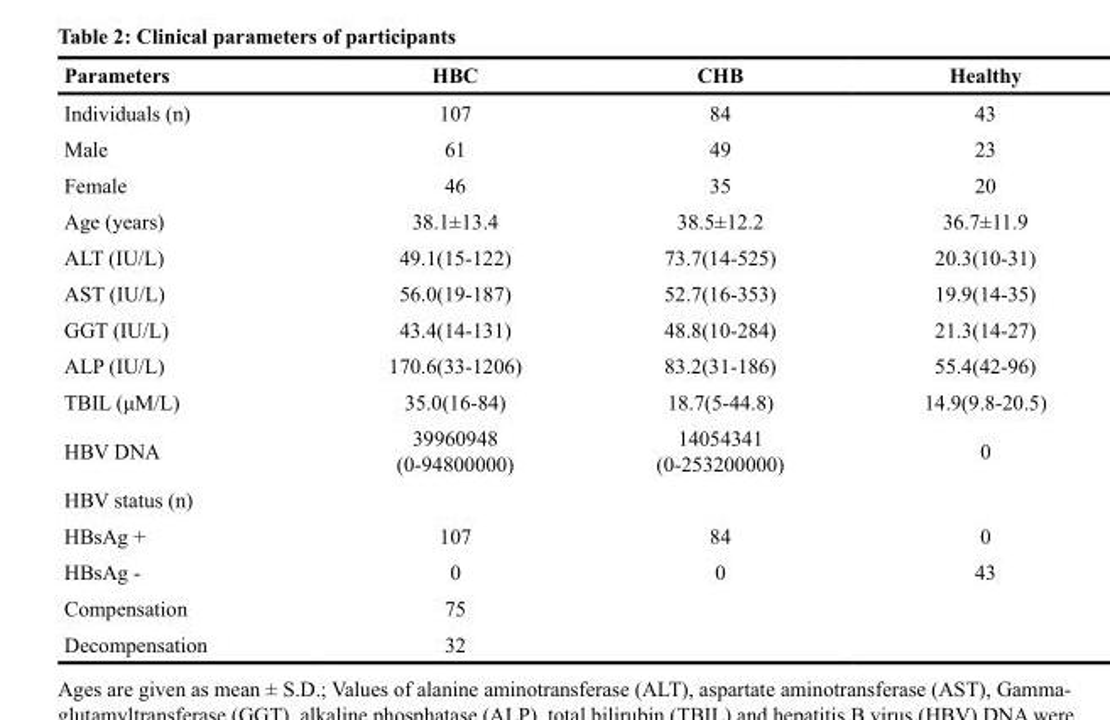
<table><thead><tr><td>Parameters</td><td>HBC</td><td>CHB</td><td>Healthy</td></tr></thead><tbody><tr><td>Individuals (n)</td><td>107</td><td>84</td><td>43</td></tr><tr><td>Male</td><td>61</td><td>49</td><td>23</td></tr><tr><td>Female</td><td>46</td><td>35</td><td>20</td></tr><tr><td>Age (years)</td><td>38.1±13.4</td><td>38.5±12.2</td><td>36.7±11.9</td></tr><tr><td>ALT (IU/L)</td><td>49.1(15-122)</td><td>73.7(14-525)</td><td>20.3(10-31)</td></tr><tr><td>AST (IU/L)</td><td>56.0(19-187)</td><td>52.7(16-353)</td><td>19.9(14-35)</td></tr><tr><td>GGT (IU/L)</td><td>43.4(14-131)</td><td>48.8(10-284)</td><td>21.3(14-27)</td></tr><tr><td>ALP (IU/L)</td><td>170.6(33-1206)</td><td>83.2(31-186)</td><td>55.4(42-96)</td></tr><tr><td>TBIL (μM/L)</td><td>35.0(16-84)</td><td>18.7(5-44.8)</td><td>14.9(9.8-20.5)</td></tr><tr><td>HBV DNA</td><td>39960948 (0-94800000)</td><td>14054341 (0-253200000)</td><td>0</td></tr><tr><td colspan="4">HBV status (n)</td></tr><tr><td>HBsAg +</td><td>107</td><td>84</td><td>0</td></tr><tr><td>HBsAg -</td><td>0</td><td>0</td><td>43</td></tr><tr><td>Compensation</td><td>75</td><td></td><td></td></tr><tr><td>Decompensation</td><td>32</td><td></td><td></td></tr></tbody></table>